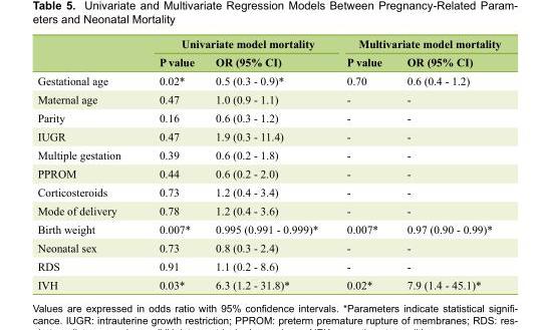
<table><thead><tr><td rowspan="2"></td><td colspan="2">Univariate model mortality</td><td colspan="2">Multivariate model mortality</td></tr><tr><td>P value</td><td>OR (95% CI)</td><td>P value</td><td>OR (95% CI)</td></tr></thead><tbody><tr><td>Gestational age</td><td>0.02*</td><td>0.5 (0.3 - 0.9)*</td><td>0.70</td><td>0.6 (0.4 - 1.2)</td></tr><tr><td>Maternal age</td><td>0.47</td><td>1.0 (0.9 - 1.1)</td><td>-</td><td>-</td></tr><tr><td>Parity</td><td>0.16</td><td>0.6 (0.3 - 1.2)</td><td>-</td><td>-</td></tr><tr><td>IUGR</td><td>0.47</td><td>1.9 (0.3 - 11.4)</td><td>-</td><td>-</td></tr><tr><td>Multiple gestation</td><td>0.39</td><td>0.6 (0.2 - 1.8)</td><td>-</td><td>-</td></tr><tr><td>PPROM</td><td>0.44</td><td>0.6 (0.2 - 2.0)</td><td>-</td><td>-</td></tr><tr><td>Corticosteroids</td><td>0.73</td><td>1.2 (0.4 - 3.4)</td><td>-</td><td>-</td></tr><tr><td>Mode of delivery</td><td>0.78</td><td>1.2 (0.4 - 3.6)</td><td>-</td><td>-</td></tr><tr><td>Birth weight</td><td>0.007*</td><td>0.995 (0.991 - 0.999)*</td><td>0.007*</td><td>0.97 (0.90 - 0.99)*</td></tr><tr><td>Neonatal sex</td><td>0.73</td><td>0.8 (0.3 - 2.4)</td><td>-</td><td>-</td></tr><tr><td>RDS</td><td>0.91</td><td>1.1 (0.2 - 8.6)</td><td>-</td><td>-</td></tr><tr><td>IVH</td><td>0.03*</td><td>6.3 (1.2 - 31.8)*</td><td>0.02*</td><td>7.9 (1.4 - 45.1)*</td></tr></tbody></table>